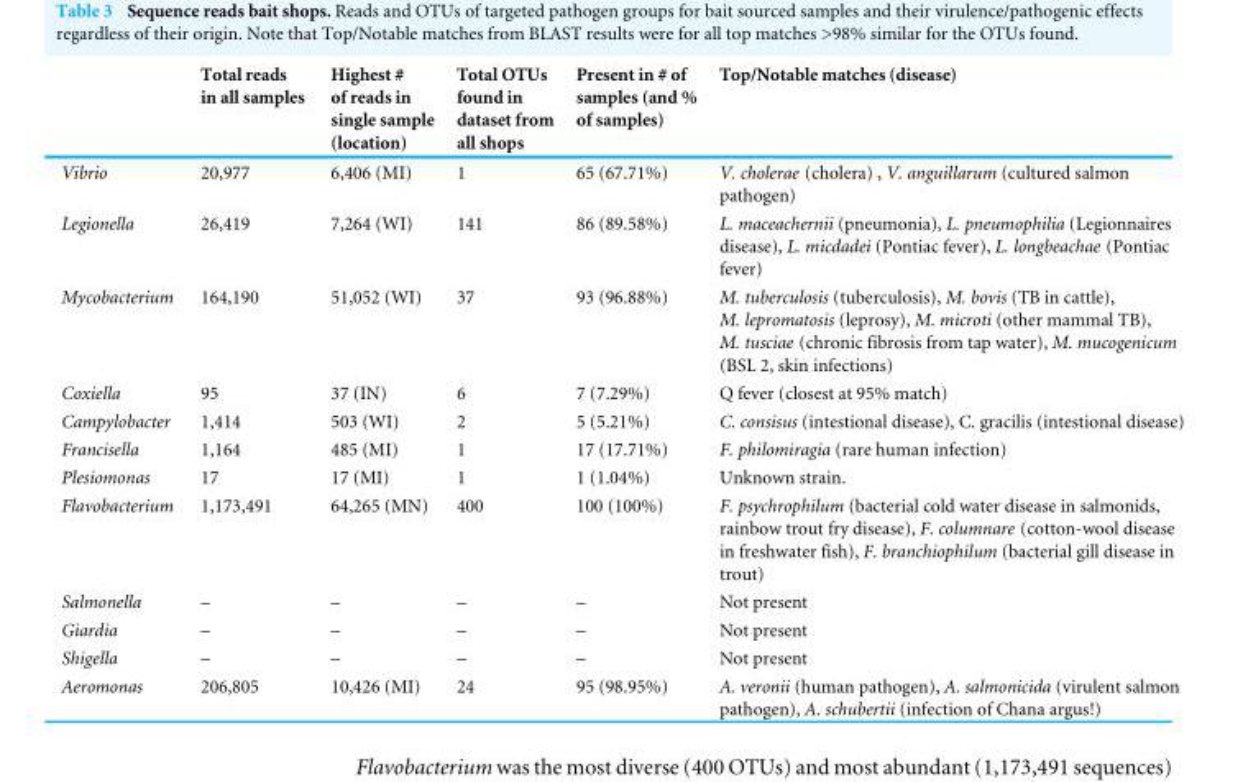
<table><thead><tr><td></td><td>Total reads in all samples</td><td>Highest # of reads in single sample (location)</td><td>Total OTUs found in dataset from all shops</td><td>Present in # of samples (and % of samples)</td><td>Top/Notable matches (disease)</td></tr></thead><tbody><tr><td>Vibrio</td><td>20,977</td><td>6,406 (MI)</td><td>1</td><td>65 (67.71%)</td><td>V. cholerae (cholera) , V. anguillarum (cultured salmon pathogen)</td></tr><tr><td>Legionella</td><td>26,419</td><td>7,264 (WI)</td><td>141</td><td>86 (89.58%)</td><td>L. maceachernii (pneumonia), L. pneumophilia (Legionnaires disease), L. micdadei (Pontiac fever), L. longbeachae (Pontiac fever)</td></tr><tr><td>Mycobacterium</td><td>164,190</td><td>51,052 (WI)</td><td>37</td><td>93 (96.88%)</td><td>M. tuberculosis (tuberculosis), M. bovis (TB in cattle), M. lepromatosis (leprosy), M. microti (other mammal TB), M. tusciae (chronic fibrosis from tap water), M. mucogenicum (BSL 2, skin infections)</td></tr><tr><td>Coxiella</td><td>95</td><td>37 (IN)</td><td>6</td><td>7 (7.29%)</td><td>Q fever (closest at 95% match)</td></tr><tr><td>Campylobacter</td><td>1,414</td><td>503 (WI)</td><td>2</td><td>5 (5.21%)</td><td>C. consisus (intestional disease), C. gracilis (intestional disease)</td></tr><tr><td>Francisella</td><td>1,164</td><td>485 (MI)</td><td>1</td><td>17 (17.71%)</td><td>F. philomiragia (rare human infection)</td></tr><tr><td>Plesiomonas</td><td>17</td><td>17 (MI)</td><td>1</td><td>1 (1.04%)</td><td>Unknown strain.</td></tr><tr><td>Flavobacterium</td><td>1,173,491</td><td>64,265 (MN)</td><td>400</td><td>100 (100%)</td><td>F. psychrophilum (bacterial cold water disease in salmonids, rainbow trout fry disease), F. columnare (cotton-wool disease in freshwater fish), F. branchiophilum (bacterial gill disease in trout)</td></tr><tr><td>Salmonella</td><td>–</td><td>–</td><td>–</td><td>–</td><td>Not present</td></tr><tr><td>Giardia</td><td>–</td><td>–</td><td>–</td><td>–</td><td>Not present</td></tr><tr><td>Shigella</td><td>–</td><td>–</td><td>–</td><td>–</td><td>Not present</td></tr><tr><td>Aeromonas</td><td>206,805</td><td>10,426 (MI)</td><td>24</td><td>95 (98.95%)</td><td>A. veronii (human pathogen), A. salmonicida (virulent salmon pathogen), A. schubertii (infection of Chana argus!)</td></tr></tbody></table>